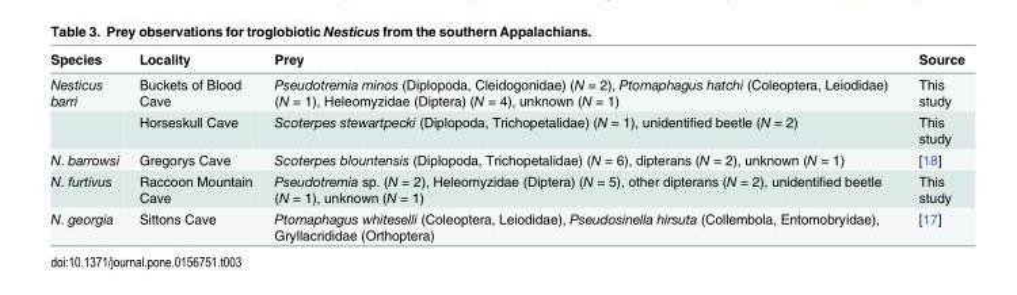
<table><thead><tr><td>Species</td><td>Locality</td><td>Prey</td><td>Source</td></tr></thead><tbody><tr><td rowspan="2">Nesticus barri</td><td>Buckets of Blood Cave</td><td>Pseudotremia minos (Diplopoda, Cleidogonidae) (N = 2), Ptomaphagus hatchi (Coleoptera, Leiodidae) (N = 1), Heleomyzidae (Diptera) (N = 4), unknown (N = 1)</td><td>This study</td></tr><tr><td>Horseskull Cave</td><td>Scoterpes stewartpecki (Diplopoda, Trichopetalidae) (N = 1), unidentified beetle (N = 2)</td><td>This study</td></tr><tr><td>N. barrowsi</td><td>Gregorys Cave</td><td>Scoterpes blountensis (Diplopoda, Trichopetalidae) (N = 6), dipterans (N = 2), unknown (N = 1)</td><td>[18]</td></tr><tr><td>N. furtivus</td><td>Raccoon Mountain Cave</td><td>Pseudotremia sp. (N = 2), Heleomyzidae (Diptera) (N = 5), other dipterans (N = 2), unidentified beetle (N = 1), unknown (N = 1)</td><td>This study</td></tr><tr><td>N. georgia</td><td>Sittons Cave</td><td>Ptomaphagus whiteselli (Coleoptera, Leiodidae), Pseudosinella hirsuta (Collembola, Entomobryidae), Gryllacrididae (Orthoptera)</td><td>[17]</td></tr></tbody></table>